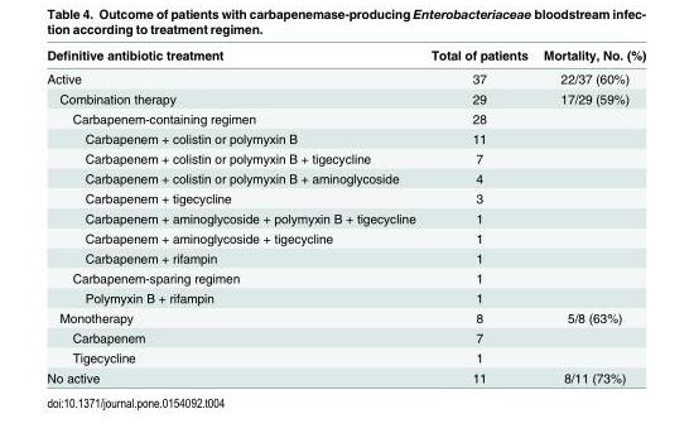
<table><thead><tr><td>Definitive antibiotic treatment</td><td>Total of patients</td><td>Mortality, No. (%)</td></tr></thead><tbody><tr><td>Active</td><td>37</td><td>22/37 (60%)</td></tr><tr><td>Combination therapy</td><td>29</td><td>17/29 (59%)</td></tr><tr><td>Carbapenem-containing regimen</td><td>28</td><td></td></tr><tr><td>Carbapenem + colistin or polymyxin B</td><td>11</td><td></td></tr><tr><td>Carbapenem + colistin or polymyxin B + tigecycline</td><td>7</td><td></td></tr><tr><td>Carbapenem + colistin or polymyxin B + aminoglycoside</td><td>4</td><td></td></tr><tr><td>Carbapenem + tigecycline</td><td>3</td><td></td></tr><tr><td>Carbapenem + aminoglycoside + polymyxin B + tigecycline</td><td>1</td><td></td></tr><tr><td>Carbapenem + aminoglycoside + tigecycline</td><td>1</td><td></td></tr><tr><td>Carbapenem + rifampin</td><td>1</td><td></td></tr><tr><td>Carbapenem-sparing regimen</td><td>1</td><td></td></tr><tr><td>Polymyxin B + rifampin</td><td>1</td><td></td></tr><tr><td>Monotherapy</td><td>8</td><td>5/8 (63%)</td></tr><tr><td>Carbapenem</td><td>7</td><td></td></tr><tr><td>Tigecycline</td><td>1</td><td></td></tr><tr><td>No active</td><td>11</td><td>8/11 (73%)</td></tr></tbody></table>